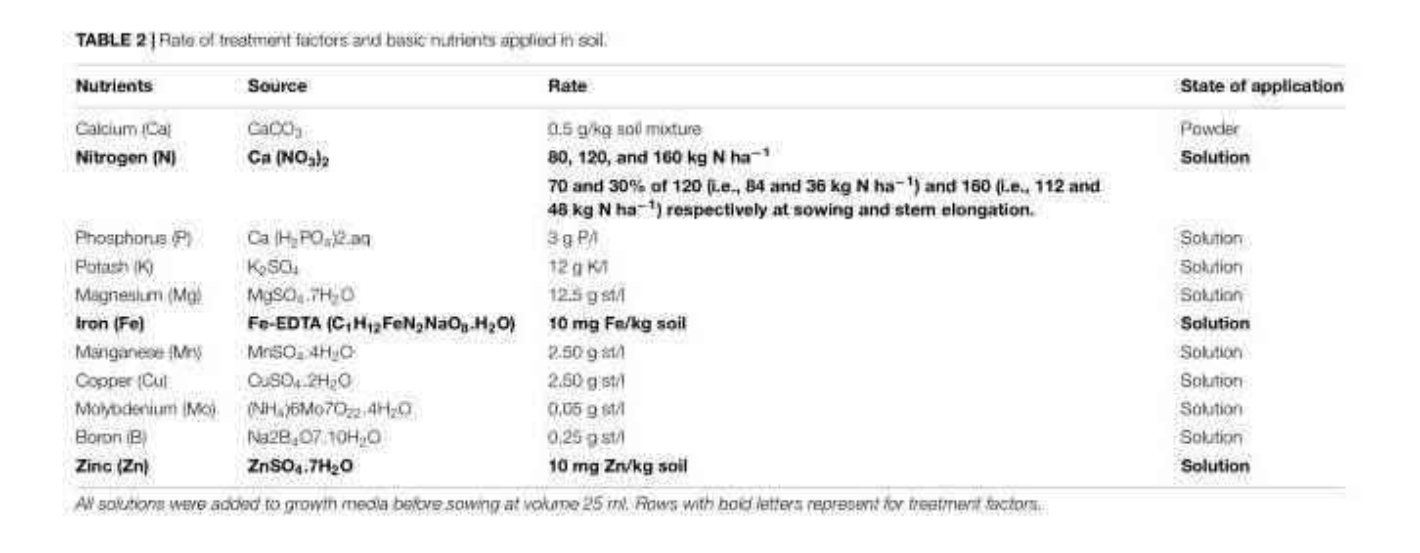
<table><thead><tr><td>Nutrients</td><td>Source</td><td>Rate</td><td>State of application</td></tr></thead><tbody><tr><td>Calcium (Ca)</td><td>CaCO<sub>3</sub></td><td>0.5 g/kg soil mixture</td><td>Powder</td></tr><tr><td rowspan="2">Nitrogen (N)</td><td>Ca (NO<sub>3</sub>)<sub>2</sub></td><td>80, 120, and 160 kg N ha<sup>−1</sup></td><td>Solution</td></tr><tr><td></td><td>70 and 30% of 120 (i.e., 84 and 36 kg N ha<sup>−1</sup>) and 160 (i.e., 112 and 48 kg N ha<sup>−1</sup>) respectively at sowing and stem elongation.</td><td></td></tr><tr><td>Phosphorus (P)</td><td>Ca (H<sub>2</sub>PO<sub>4</sub>)2.aq</td><td>3 g P/l</td><td>Solution</td></tr><tr><td>Potash (K)</td><td>K<sub>2</sub>SO<sub>4</sub></td><td>12 g K/l</td><td>Solution</td></tr><tr><td>Magnesium (Mg)</td><td>MgSO<sub>4</sub>.7H<sub>2</sub>O</td><td>12.5 g st/l</td><td>Solution</td></tr><tr><td>Iron (Fe)</td><td>Fe-EDTA (C<sub>1</sub>H<sub>12</sub>FeN<sub>2</sub>NaO<sub>8</sub>.H<sub>2</sub>O)</td><td>10 mg Fe/kg soil</td><td>Solution</td></tr><tr><td>Manganese (Mn)</td><td>MnSO<sub>4</sub>.4H<sub>2</sub>O</td><td>2.50 g st/l</td><td>Solution</td></tr><tr><td>Copper (Cu)</td><td>CuSO<sub>4</sub>.2H<sub>2</sub>O</td><td>2.50 g st/l</td><td>Solution</td></tr><tr><td>Molybdenium (Mo)</td><td>(NH<sub>4</sub>)6Mo7O<sub>22</sub>.4H<sub>2</sub>O</td><td>0.05 g st/l</td><td>Solution</td></tr><tr><td>Boron (B)</td><td>Na2B<sub>4</sub>O7.10H<sub>2</sub>O</td><td>0.25 g st/l</td><td>Solution</td></tr><tr><td>Zinc (Zn)</td><td>ZnSO<sub>4</sub>.7H<sub>2</sub>O</td><td>10 mg Zn/kg soil</td><td>Solution</td></tr></tbody></table>